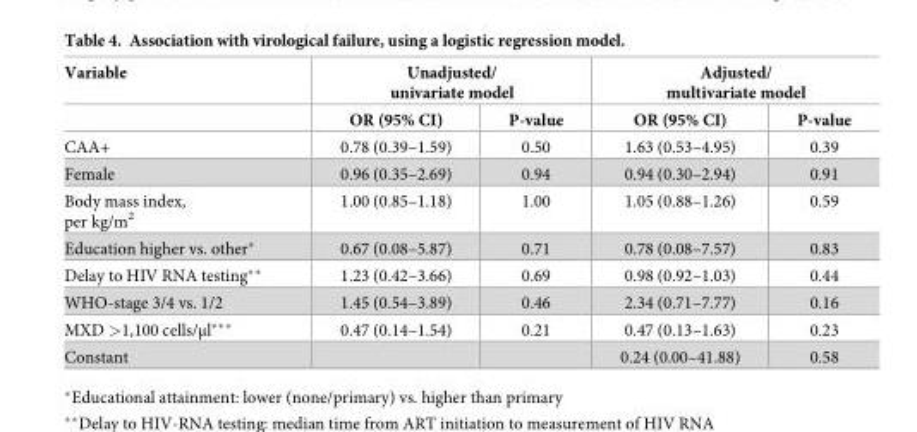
<table><thead><tr><td rowspan="2">Variable</td><td colspan="2">Unadjusted/ univariate model</td><td colspan="2">Adjusted/ multivariate model</td></tr><tr><td>OR (95% CI)</td><td>P-value</td><td>OR (95% CI)</td><td>P-value</td></tr></thead><tbody><tr><td>CAA+</td><td>0.78 (0.39–1.59)</td><td>0.50</td><td>1.63 (0.53–4.95)</td><td>0.39</td></tr><tr><td>Female</td><td>0.96 (0.35–2.69)</td><td>0.94</td><td>0.94 (0.30–2.94)</td><td>0.91</td></tr><tr><td>Body mass index, per kg/m<sup>2</sup></td><td>1.00 (0.85–1.18)</td><td>1.00</td><td>1.05 (0.88–1.26)</td><td>0.59</td></tr><tr><td>Education higher vs. other*</td><td>0.67 (0.08–5.87)</td><td>0.71</td><td>0.78 (0.08–7.57)</td><td>0.83</td></tr><tr><td>Delay to HIV RNA testing**</td><td>1.23 (0.42–3.66)</td><td>0.69</td><td>0.98 (0.92–1.03)</td><td>0.44</td></tr><tr><td>WHO-stage 3/4 vs. 1/2</td><td>1.45 (0.54–3.89)</td><td>0.46</td><td>2.34 (0.71–7.77)</td><td>0.16</td></tr><tr><td>MXD &gt;1,100 cells/μl***</td><td>0.47 (0.14–1.54)</td><td>0.21</td><td>0.47 (0.13–1.63)</td><td>0.23</td></tr><tr><td>Constant</td><td></td><td></td><td>0.24 (0.00–41.88)</td><td>0.58</td></tr></tbody></table>